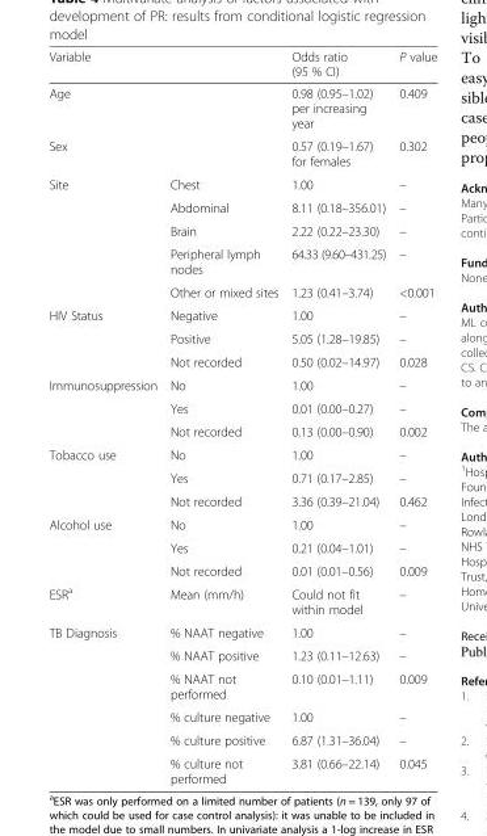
<table><thead><tr><td colspan="2">Variable</td><td rowspan="2">Odds ratio (95 % CI) 0.98 (0.95–1.02) per increasing year</td><td rowspan="2">P value 0.409</td></tr><tr><td>Age</td><td></td></tr></thead><tbody><tr><td>Sex</td><td></td><td>0.57 (0.19–1.67) for females</td><td>0.302</td></tr><tr><td rowspan="5">Site</td><td>Chest</td><td>1.00</td><td>–</td></tr><tr><td>Abdominal</td><td>8.11 (0.18–356.01)</td><td>–</td></tr><tr><td>Brain</td><td>2.22 (0.22–23.30)</td><td>–</td></tr><tr><td>Peripheral lymph nodes</td><td>64.33 (9.60–431.25)</td><td>–</td></tr><tr><td>Other or mixed sites</td><td>1.23 (0.41–3.74)</td><td>&lt;0.001</td></tr><tr><td rowspan="3">HIV Status</td><td>Negative</td><td>1.00</td><td>–</td></tr><tr><td>Positive</td><td>5.05 (1.28–19.85)</td><td>–</td></tr><tr><td>Not recorded</td><td>0.50 (0.02–14.97)</td><td>0.028</td></tr><tr><td rowspan="3">Immunosuppression</td><td>No</td><td>1.00</td><td>–</td></tr><tr><td>Yes</td><td>0.01 (0.00–0.27)</td><td>–</td></tr><tr><td>Not recorded</td><td>0.13 (0.00–0.90)</td><td>0.002</td></tr><tr><td rowspan="3">Tobacco use</td><td>No</td><td>1.00</td><td>–</td></tr><tr><td>Yes</td><td>0.71 (0.17–2.85)</td><td>–</td></tr><tr><td>Not recorded</td><td>3.36 (0.39–21.04)</td><td>0.462</td></tr><tr><td rowspan="3">Alcohol use</td><td>No</td><td>1.00</td><td>–</td></tr><tr><td>Yes</td><td>0.21 (0.04–1.01)</td><td>–</td></tr><tr><td>Not recorded</td><td>0.01 (0.01–0.56)</td><td>0.009</td></tr><tr><td>ESR<sup>a</sup></td><td>Mean (mm/h)</td><td>Could not fit within model</td><td>–</td></tr><tr><td rowspan="6">TB Diagnosis</td><td>% NAAT negative</td><td>1.00</td><td>–</td></tr><tr><td>% NAAT positive</td><td>1.23 (0.11–12.63)</td><td>–</td></tr><tr><td>% NAAT not performed</td><td>0.10 (0.01–1.11)</td><td>0.009</td></tr><tr><td>% culture negative</td><td>1.00</td><td>–</td></tr><tr><td>% culture positive</td><td>6.87 (1.31–36.04)</td><td>–</td></tr><tr><td>% culture not performed</td><td>3.81 (0.66–22.14)</td><td>0.045</td></tr></tbody></table>